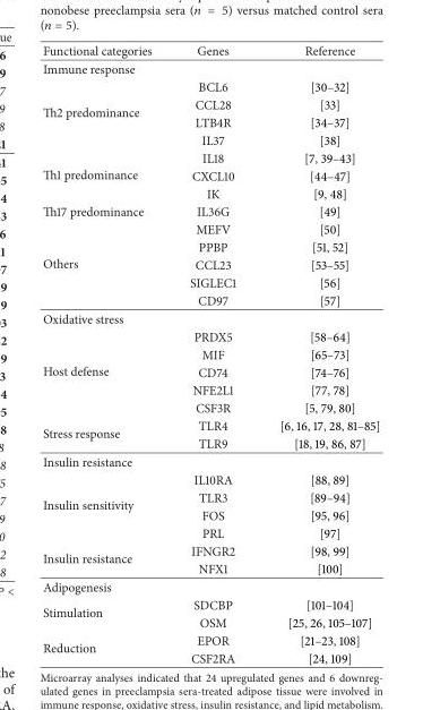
<table><thead><tr><td>Functional categories</td><td>Genes</td><td>Reference</td></tr></thead><tbody><tr><td colspan="3">Immune response</td></tr><tr><td rowspan="4">Th2 predominance</td><td>BCL6</td><td>[30–32]</td></tr><tr><td>CCL28</td><td>[33]</td></tr><tr><td>LTB4R</td><td>[34–37]</td></tr><tr><td>IL37</td><td>[38]</td></tr><tr><td rowspan="3">Th1 predominance</td><td>IL18</td><td>[7, 39–43]</td></tr><tr><td>CXCL10</td><td>[44–47]</td></tr><tr><td>IK</td><td>[9, 48]</td></tr><tr><td>Th17 predominance</td><td>IL36G</td><td>[49]</td></tr><tr><td rowspan="5">Others</td><td>MEFV</td><td>[50]</td></tr><tr><td>PPBP</td><td>[51, 52]</td></tr><tr><td>CCL23</td><td>[53–55]</td></tr><tr><td>SIGLEC1</td><td>[56]</td></tr><tr><td>CD97</td><td>[57]</td></tr><tr><td colspan="3">Oxidative stress</td></tr><tr><td rowspan="5">Host defense</td><td>PRDX5</td><td>[58–64]</td></tr><tr><td>MIF</td><td>[65–73]</td></tr><tr><td>CD74</td><td>[74–76]</td></tr><tr><td>NFE2L1</td><td>[77, 78]</td></tr><tr><td>CSF3R</td><td>[5, 79, 80]</td></tr><tr><td rowspan="2">Stress response</td><td>TLR4</td><td>[6, 16, 17, 28, 81–85]</td></tr><tr><td>TLR9</td><td>[18, 19, 86, 87]</td></tr><tr><td colspan="3">Insulin resistance</td></tr><tr><td rowspan="4">Insulin sensitivity</td><td>IL10RA</td><td>[88, 89]</td></tr><tr><td>TLR3</td><td>[89–94]</td></tr><tr><td>FOS</td><td>[95, 96]</td></tr><tr><td>PRL</td><td>[97]</td></tr><tr><td rowspan="2">Insulin resistance</td><td>IFNGR2</td><td>[98, 99]</td></tr><tr><td>NFX1</td><td>[100]</td></tr><tr><td colspan="3">Adipogenesis</td></tr><tr><td rowspan="2">Stimulation</td><td>SDCBP</td><td>[101–104]</td></tr><tr><td>OSM</td><td>[25, 26, 105–107]</td></tr><tr><td rowspan="2">Reduction</td><td>EPOR</td><td>[21–23, 108]</td></tr><tr><td>CSF2RA</td><td>[24, 109]</td></tr></tbody></table>